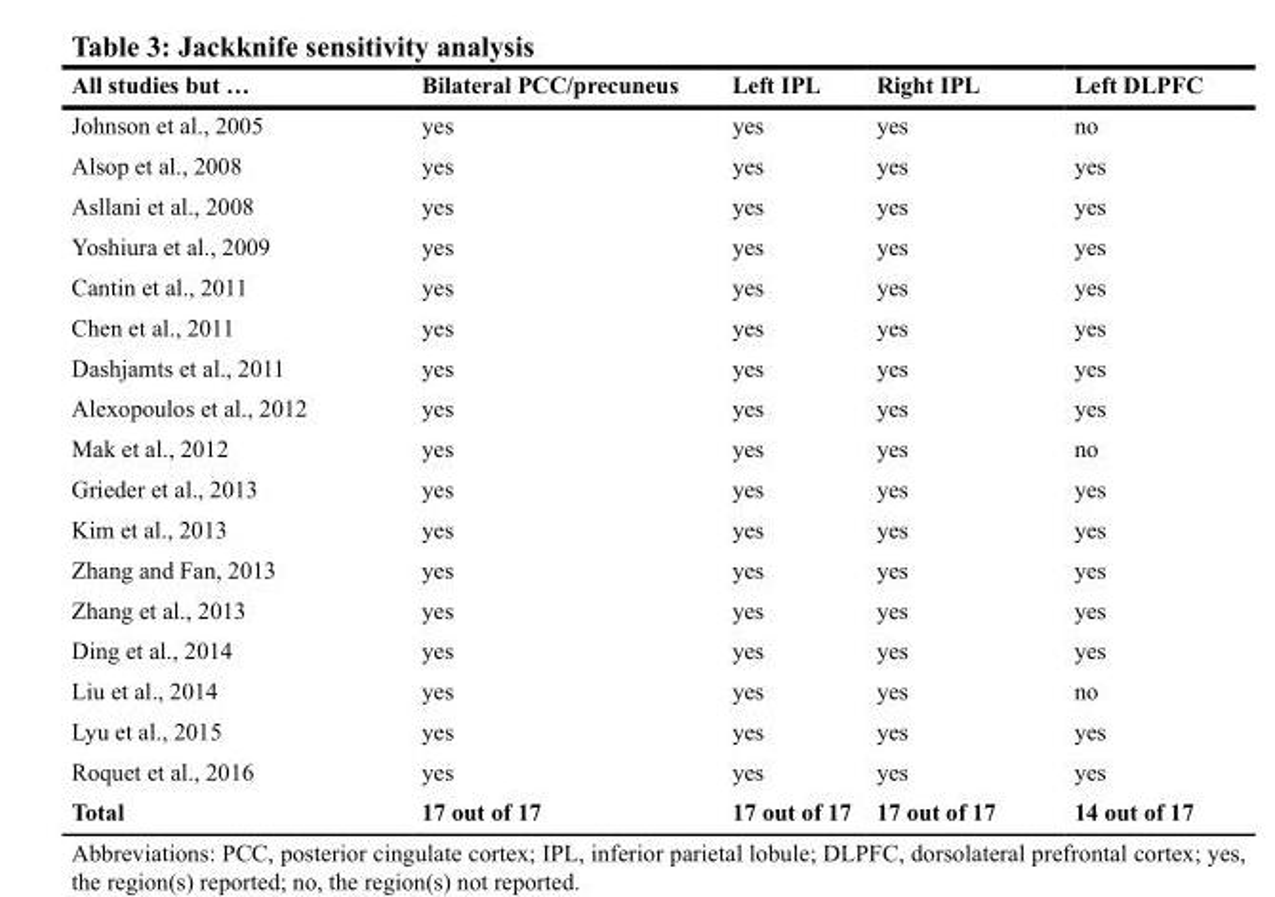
<table><thead><tr><td>All studies but …</td><td>Bilateral PCC/precuneus</td><td>Left IPL</td><td>Right IPL</td><td>Left DLPFC</td></tr></thead><tbody><tr><td>Johnson et al., 2005</td><td>yes</td><td>yes</td><td>yes</td><td>no</td></tr><tr><td>Alsop et al., 2008</td><td>yes</td><td>yes</td><td>yes</td><td>yes</td></tr><tr><td>Asllani et al., 2008</td><td>yes</td><td>yes</td><td>yes</td><td>yes</td></tr><tr><td>Yoshiura et al., 2009</td><td>yes</td><td>yes</td><td>yes</td><td>yes</td></tr><tr><td>Cantin et al., 2011</td><td>yes</td><td>yes</td><td>yes</td><td>yes</td></tr><tr><td>Chen et al., 2011</td><td>yes</td><td>yes</td><td>yes</td><td>yes</td></tr><tr><td>Dashjamts et al., 2011</td><td>yes</td><td>yes</td><td>yes</td><td>yes</td></tr><tr><td>Alexopoulos et al., 2012</td><td>yes</td><td>yes</td><td>yes</td><td>yes</td></tr><tr><td>Mak et al., 2012</td><td>yes</td><td>yes</td><td>yes</td><td>no</td></tr><tr><td>Grieder et al., 2013</td><td>yes</td><td>yes</td><td>yes</td><td>yes</td></tr><tr><td>Kim et al., 2013</td><td>yes</td><td>yes</td><td>yes</td><td>yes</td></tr><tr><td>Zhang and Fan, 2013</td><td>yes</td><td>yes</td><td>yes</td><td>yes</td></tr><tr><td>Zhang et al., 2013</td><td>yes</td><td>yes</td><td>yes</td><td>yes</td></tr><tr><td>Ding et al., 2014</td><td>yes</td><td>yes</td><td>yes</td><td>yes</td></tr><tr><td>Liu et al., 2014</td><td>yes</td><td>yes</td><td>yes</td><td>no</td></tr><tr><td>Lyu et al., 2015</td><td>yes</td><td>yes</td><td>yes</td><td>yes</td></tr><tr><td>Roquet et al., 2016</td><td>yes</td><td>yes</td><td>yes</td><td>yes</td></tr><tr><td>Total</td><td>17 out of 17</td><td>17 out of 17</td><td>17 out of 17</td><td>14 out of 17</td></tr></tbody></table>